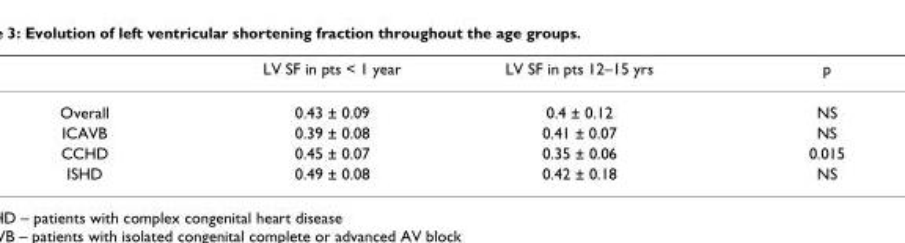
<table><thead><tr><td></td><td>LV SF in pts &lt; 1 year</td><td>LV SF in pts 12–15 yrs</td><td>p</td></tr></thead><tbody><tr><td>Overall</td><td>0.43 ± 0.09</td><td>0.4 ± 0.12</td><td>NS</td></tr><tr><td>ICAVB</td><td>0.39 ± 0.08</td><td>0.41 ± 0.07</td><td>NS</td></tr><tr><td>CCHD</td><td>0.45 ± 0.07</td><td>0.35 ± 0.06</td><td>0.015</td></tr><tr><td>ISHD</td><td>0.49 ± 0.08</td><td>0.42 ± 0.18</td><td>NS</td></tr></tbody></table>